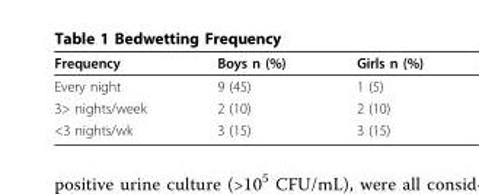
<table><thead><tr><td>Frequency</td><td>Boys n (%)</td><td>Girls n (%)</td></tr></thead><tbody><tr><td>Every night</td><td>9 (45)</td><td>1 (5)</td></tr><tr><td>3&gt; nights/week</td><td>2 (10)</td><td>2 (10)</td></tr><tr><td>&lt;3 nights/wk</td><td>3 (15)</td><td>3 (15)</td></tr></tbody></table>